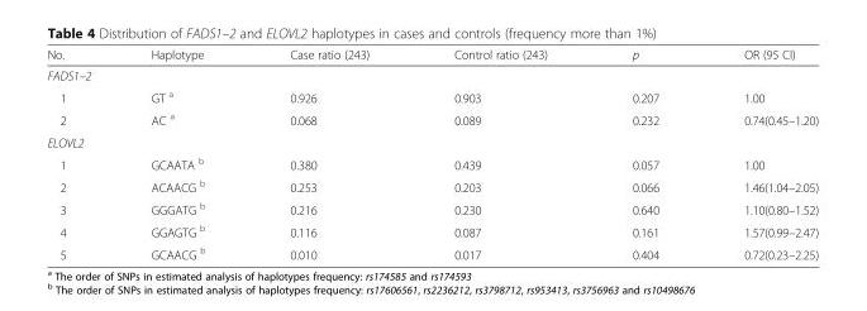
<table><thead><tr><td>No.</td><td>Haplotype</td><td>Case ratio (243)</td><td>Control ratio (243)</td><td>p</td><td>OR (95 CI)</td></tr></thead><tbody><tr><td colspan="6">FADS1–2</td></tr><tr><td>1</td><td>GT <sup>a</sup></td><td>0.926</td><td>0.903</td><td>0.207</td><td>1.00</td></tr><tr><td>2</td><td>AC <sup>a</sup></td><td>0.068</td><td>0.089</td><td>0.232</td><td>0.74(0.45–1.20)</td></tr><tr><td colspan="6">ELOVL2</td></tr><tr><td>1</td><td>GCAATA <sup>b</sup></td><td>0.380</td><td>0.439</td><td>0.057</td><td>1.00</td></tr><tr><td>2</td><td>ACAACG <sup>b</sup></td><td>0.253</td><td>0.203</td><td>0.066</td><td>1.46(1.04–2.05)</td></tr><tr><td>3</td><td>GGGATG <sup>b</sup></td><td>0.216</td><td>0.230</td><td>0.640</td><td>1.10(0.80–1.52)</td></tr><tr><td>4</td><td>GGAGTG <sup>b</sup></td><td>0.116</td><td>0.087</td><td>0.161</td><td>1.57(0.99–2.47)</td></tr><tr><td>5</td><td>GCAACG <sup>b</sup></td><td>0.010</td><td>0.017</td><td>0.404</td><td>0.72(0.23–2.25)</td></tr></tbody></table>